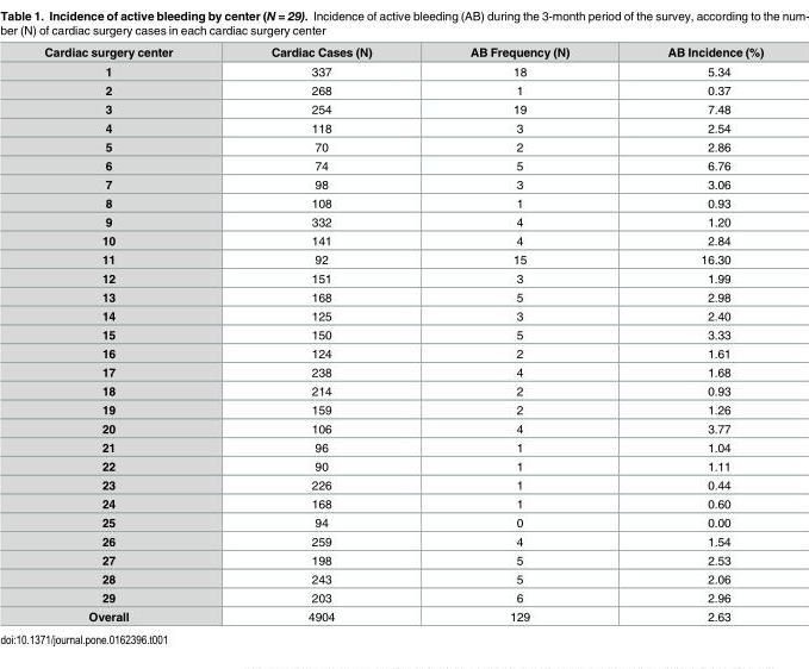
<table><thead><tr><td>Cardiac surgery center</td><td>Cardiac Cases (N)</td><td>AB Frequency (N)</td><td>AB Incidence (%)</td></tr></thead><tbody><tr><td>1</td><td>337</td><td>18</td><td>5.34</td></tr><tr><td>2</td><td>268</td><td>1</td><td>0.37</td></tr><tr><td>3</td><td>254</td><td>19</td><td>7.48</td></tr><tr><td>4</td><td>118</td><td>3</td><td>2.54</td></tr><tr><td>5</td><td>70</td><td>2</td><td>2.86</td></tr><tr><td>6</td><td>74</td><td>5</td><td>6.76</td></tr><tr><td>7</td><td>98</td><td>3</td><td>3.06</td></tr><tr><td>8</td><td>108</td><td>1</td><td>0.93</td></tr><tr><td>9</td><td>332</td><td>4</td><td>1.20</td></tr><tr><td>10</td><td>141</td><td>4</td><td>2.84</td></tr><tr><td>11</td><td>92</td><td>15</td><td>16.30</td></tr><tr><td>12</td><td>151</td><td>3</td><td>1.99</td></tr><tr><td>13</td><td>168</td><td>5</td><td>2.98</td></tr><tr><td>14</td><td>125</td><td>3</td><td>2.40</td></tr><tr><td>15</td><td>150</td><td>5</td><td>3.33</td></tr><tr><td>16</td><td>124</td><td>2</td><td>1.61</td></tr><tr><td>17</td><td>238</td><td>4</td><td>1.68</td></tr><tr><td>18</td><td>214</td><td>2</td><td>0.93</td></tr><tr><td>19</td><td>159</td><td>2</td><td>1.26</td></tr><tr><td>20</td><td>106</td><td>4</td><td>3.77</td></tr><tr><td>21</td><td>96</td><td>1</td><td>1.04</td></tr><tr><td>22</td><td>90</td><td>1</td><td>1.11</td></tr><tr><td>23</td><td>226</td><td>1</td><td>0.44</td></tr><tr><td>24</td><td>168</td><td>1</td><td>0.60</td></tr><tr><td>25</td><td>94</td><td>0</td><td>0.00</td></tr><tr><td>26</td><td>259</td><td>4</td><td>1.54</td></tr><tr><td>27</td><td>198</td><td>5</td><td>2.53</td></tr><tr><td>28</td><td>243</td><td>5</td><td>2.06</td></tr><tr><td>29</td><td>203</td><td>6</td><td>2.96</td></tr><tr><td>Overall</td><td>4904</td><td>129</td><td>2.63</td></tr></tbody></table>